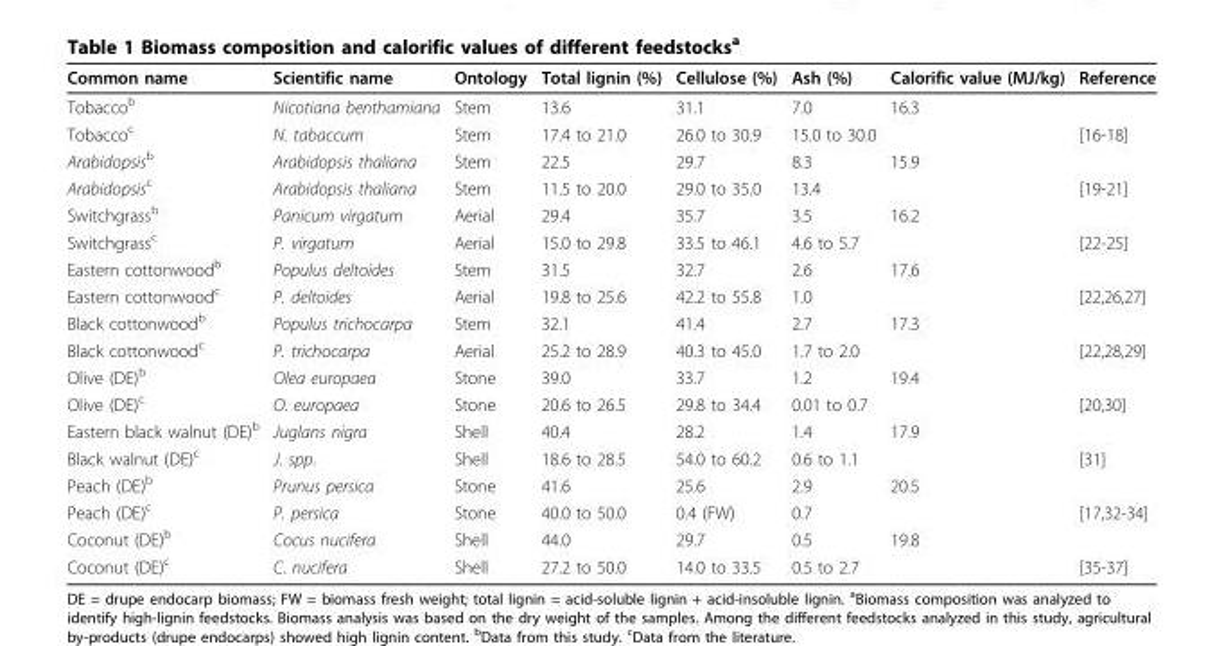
<table><thead><tr><td>Common name</td><td>Scientific name</td><td>Ontology</td><td>Total lignin (%)</td><td>Cellulose (%)</td><td>Ash (%)</td><td>Calorific value (MJ/kg)</td><td>Reference</td></tr></thead><tbody><tr><td>Tobacco<sup>b</sup></td><td>Nicotiana benthamiana</td><td>Stem</td><td>13.6</td><td>31.1</td><td>7.0</td><td>16.3</td><td></td></tr><tr><td>Tobacco<sup>c</sup></td><td>N. tabaccum</td><td>Stem</td><td>17.4 to 21.0</td><td>26.0 to 30.9</td><td>15.0 to 30.0</td><td></td><td>[16-18]</td></tr><tr><td>Arabidopsis<sup>b</sup></td><td>Arabidopsis thaliana</td><td>Stem</td><td>22.5</td><td>29.7</td><td>8.3</td><td>15.9</td><td></td></tr><tr><td>Arabidopsis<sup>c</sup></td><td>Arabidopsis thaliana</td><td>Stem</td><td>11.5 to 20.0</td><td>29.0 to 35.0</td><td>13.4</td><td></td><td>[19-21]</td></tr><tr><td>Switchgrass<sup>b</sup></td><td>Panicum virgatum</td><td>Aerial</td><td>29.4</td><td>35.7</td><td>3.5</td><td>16.2</td><td></td></tr><tr><td>Switchgrass<sup>c</sup></td><td>P. virgatum</td><td>Aerial</td><td>15.0 to 29.8</td><td>33.5 to 46.1</td><td>4.6 to 5.7</td><td></td><td>[22-25]</td></tr><tr><td>Eastern cottonwood<sup>b</sup></td><td>Populus deltoides</td><td>Stem</td><td>31.5</td><td>32.7</td><td>2.6</td><td>17.6</td><td></td></tr><tr><td>Eastern cottonwood<sup>c</sup></td><td>P. deltoides</td><td>Aerial</td><td>19.8 to 25.6</td><td>42.2 to 55.8</td><td>1.0</td><td></td><td>[22,26,27]</td></tr><tr><td>Black cottonwood<sup>b</sup></td><td>Populus trichocarpa</td><td>Stem</td><td>32.1</td><td>41.4</td><td>2.7</td><td>17.3</td><td></td></tr><tr><td>Black cottonwood<sup>c</sup></td><td>P. trichocarpa</td><td>Aerial</td><td>25.2 to 28.9</td><td>40.3 to 45.0</td><td>1.7 to 2.0</td><td></td><td>[22,28,29]</td></tr><tr><td>Olive (DE)<sup>b</sup></td><td>Olea europaea</td><td>Stone</td><td>39.0</td><td>33.7</td><td>1.2</td><td>19.4</td><td></td></tr><tr><td>Olive (DE)<sup>c</sup></td><td>O. europaea</td><td>Stone</td><td>20.6 to 26.5</td><td>29.8 to 34.4</td><td>0.01 to 0.7</td><td></td><td>[20,30]</td></tr><tr><td>Eastern black walnut (DE)<sup>b</sup></td><td>Juglans nigra</td><td>Shell</td><td>40.4</td><td>28.2</td><td>1.4</td><td>17.9</td><td></td></tr><tr><td>Black walnut (DE)<sup>c</sup></td><td>J. spp.</td><td>Shell</td><td>18.6 to 28.5</td><td>54.0 to 60.2</td><td>0.6 to 1.1</td><td></td><td>[31]</td></tr><tr><td>Peach (DE)<sup>b</sup></td><td>Prunus persica</td><td>Stone</td><td>41.6</td><td>25.6</td><td>2.9</td><td>20.5</td><td></td></tr><tr><td>Peach (DE)<sup>c</sup></td><td>P. persica</td><td>Stone</td><td>40.0 to 50.0</td><td>0.4 (FW)</td><td>0.7</td><td></td><td>[17,32-34]</td></tr><tr><td>Coconut (DE)<sup>b</sup></td><td>Cocus nucifera</td><td>Shell</td><td>44.0</td><td>29.7</td><td>0.5</td><td>19.8</td><td></td></tr><tr><td>Coconut (DE)<sup>c</sup></td><td>C. nucifera</td><td>Shell</td><td>27.2 to 50.0</td><td>14.0 to 33.5</td><td>0.5 to 2.7</td><td></td><td>[35-37]</td></tr></tbody></table>